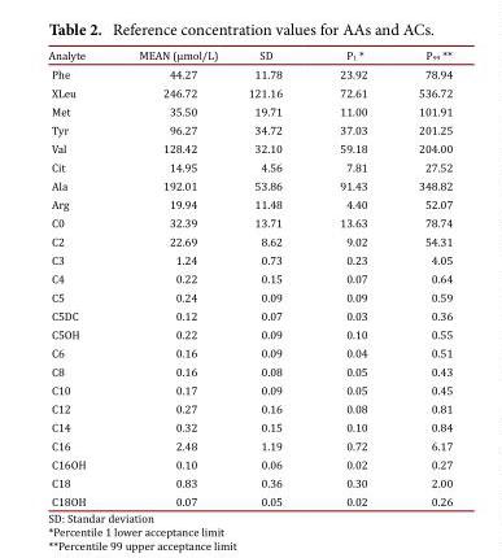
<table><thead><tr><td>Analyte</td><td>MEAN (µmol/L)</td><td>SD</td><td>P<sub>1</sub> *</td><td>P<sub>99</sub> **</td></tr></thead><tbody><tr><td>Phe</td><td>44.27</td><td>11.78</td><td>23.92</td><td>78.94</td></tr><tr><td>XLeu</td><td>246.72</td><td>121.16</td><td>72.61</td><td>536.72</td></tr><tr><td>Met</td><td>35.50</td><td>19.71</td><td>11.00</td><td>101.91</td></tr><tr><td>Tyr</td><td>96.27</td><td>34.72</td><td>37.03</td><td>201.25</td></tr><tr><td>Val</td><td>128.42</td><td>32.10</td><td>59.18</td><td>204.00</td></tr><tr><td>Cit</td><td>14.95</td><td>4.56</td><td>7.81</td><td>27.52</td></tr><tr><td>Ala</td><td>192.01</td><td>53.86</td><td>91.43</td><td>348.82</td></tr><tr><td>Arg</td><td>19.94</td><td>11.48</td><td>4.40</td><td>52.07</td></tr><tr><td>C0</td><td>32.39</td><td>13.71</td><td>13.63</td><td>78.74</td></tr><tr><td>C2</td><td>22.69</td><td>8.62</td><td>9.02</td><td>54.31</td></tr><tr><td>C3</td><td>1.24</td><td>0.73</td><td>0.23</td><td>4.05</td></tr><tr><td>C4</td><td>0.22</td><td>0.15</td><td>0.07</td><td>0.64</td></tr><tr><td>C5</td><td>0.24</td><td>0.09</td><td>0.09</td><td>0.59</td></tr><tr><td>C5DC</td><td>0.12</td><td>0.07</td><td>0.03</td><td>0.36</td></tr><tr><td>C5OH</td><td>0.22</td><td>0.09</td><td>0.10</td><td>0.55</td></tr><tr><td>C6</td><td>0.16</td><td>0.09</td><td>0.04</td><td>0.51</td></tr><tr><td>C8</td><td>0.16</td><td>0.08</td><td>0.05</td><td>0.43</td></tr><tr><td>C10</td><td>0.17</td><td>0.09</td><td>0.05</td><td>0.45</td></tr><tr><td>C12</td><td>0.27</td><td>0.16</td><td>0.08</td><td>0.81</td></tr><tr><td>C14</td><td>0.32</td><td>0.15</td><td>0.10</td><td>0.84</td></tr><tr><td>C16</td><td>2.48</td><td>1.19</td><td>0.72</td><td>6.17</td></tr><tr><td>C16OH</td><td>0.10</td><td>0.06</td><td>0.02</td><td>0.27</td></tr><tr><td>C18</td><td>0.83</td><td>0.36</td><td>0.30</td><td>2.00</td></tr><tr><td>C18OH</td><td>0.07</td><td>0.05</td><td>0.02</td><td>0.26</td></tr></tbody></table>